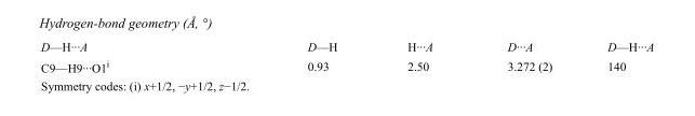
<table><tbody><tr><td>D—H···A</td><td>D—H</td><td>H···A</td><td>D···A</td><td>D—H···A</td></tr><tr><td>C9—H9···O1<sup>i</sup></td><td>0.93</td><td>2.50</td><td>3.272 (2)</td><td>140</td></tr></tbody></table>